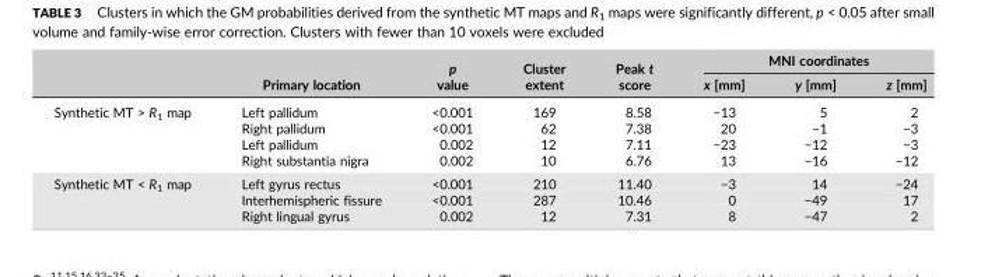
<table><thead><tr><td rowspan="2"></td><td rowspan="2">Primary location</td><td rowspan="2">p value</td><td rowspan="2">Cluster extent</td><td rowspan="2">Peak t score</td><td colspan="3">MNI coordinates</td></tr><tr><td>x [mm]</td><td>y [mm]</td><td>z [mm]</td></tr></thead><tbody><tr><td rowspan="4">Synthetic MT &gt; R<sub>1</sub> map</td><td>Left pallidum</td><td>&lt;0.001</td><td>169</td><td>8.58</td><td>−13</td><td>5</td><td>2</td></tr><tr><td>Right pallidum</td><td>&lt;0.001</td><td>62</td><td>7.38</td><td>20</td><td>−1</td><td>−3</td></tr><tr><td>Left pallidum</td><td>0.002</td><td>12</td><td>7.11</td><td>−23</td><td>−12</td><td>−3</td></tr><tr><td>Right substantia nigra</td><td>0.002</td><td>10</td><td>6.76</td><td>13</td><td>−16</td><td>−12</td></tr><tr><td rowspan="3">Synthetic MT &lt; R<sub>1</sub> map</td><td>Left gyrus rectus</td><td>&lt;0.001</td><td>210</td><td>11.40</td><td>−3</td><td>14</td><td>−24</td></tr><tr><td>Interhemispheric fissure</td><td>&lt;0.001</td><td>287</td><td>10.46</td><td>0</td><td>−49</td><td>17</td></tr><tr><td>Right lingual gyrus</td><td>0.002</td><td>12</td><td>7.31</td><td>8</td><td>−47</td><td>2</td></tr></tbody></table>